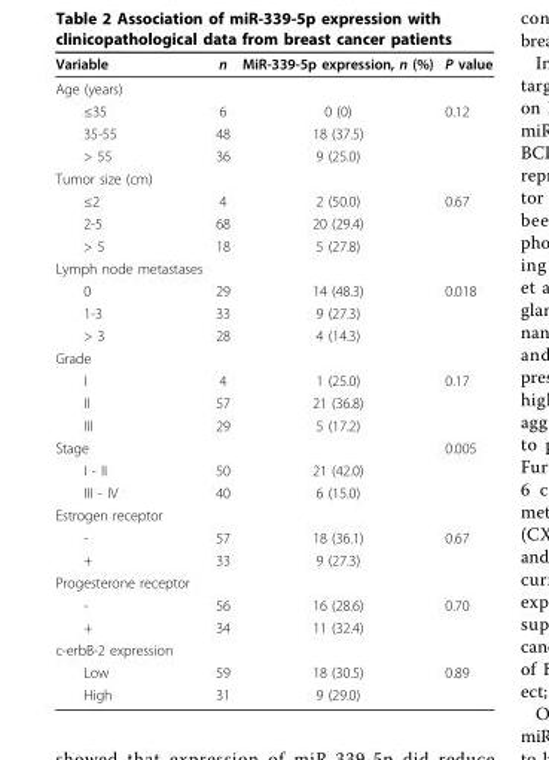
<table><thead><tr><td>Variable</td><td>n</td><td>MiR-339-5p expression, n (%)</td><td>P value</td></tr></thead><tbody><tr><td colspan="4">Age (years)</td></tr><tr><td>≤35</td><td>6</td><td>0 (0)</td><td>0.12</td></tr><tr><td>35-55</td><td>48</td><td>18 (37.5)</td><td></td></tr><tr><td>&gt; 55</td><td>36</td><td>9 (25.0)</td><td></td></tr><tr><td colspan="4">Tumor size (cm)</td></tr><tr><td>≤2</td><td>4</td><td>2 (50.0)</td><td>0.67</td></tr><tr><td>2-5</td><td>68</td><td>20 (29.4)</td><td></td></tr><tr><td>&gt; 5</td><td>18</td><td>5 (27.8)</td><td></td></tr><tr><td colspan="4">Lymph node metastases</td></tr><tr><td>0</td><td>29</td><td>14 (48.3)</td><td>0.018</td></tr><tr><td>1-3</td><td>33</td><td>9 (27.3)</td><td></td></tr><tr><td>&gt; 3</td><td>28</td><td>4 (14.3)</td><td></td></tr><tr><td colspan="4">Grade</td></tr><tr><td>I</td><td>4</td><td>1 (25.0)</td><td>0.17</td></tr><tr><td>II</td><td>57</td><td>21 (36.8)</td><td></td></tr><tr><td>III</td><td>29</td><td>5 (17.2)</td><td></td></tr><tr><td>Stage</td><td></td><td></td><td>0.005</td></tr><tr><td>I - II</td><td>50</td><td>21 (42.0)</td><td></td></tr><tr><td>III - IV</td><td>40</td><td>6 (15.0)</td><td></td></tr><tr><td colspan="4">Estrogen receptor</td></tr><tr><td>-</td><td>57</td><td>18 (36.1)</td><td>0.67</td></tr><tr><td>+</td><td>33</td><td>9 (27.3)</td><td></td></tr><tr><td colspan="4">Progesterone receptor</td></tr><tr><td>-</td><td>56</td><td>16 (28.6)</td><td>0.70</td></tr><tr><td>+</td><td>34</td><td>11 (32.4)</td><td></td></tr><tr><td colspan="4">c-erbB-2 expression</td></tr><tr><td>Low</td><td>59</td><td>18 (30.5)</td><td>0.89</td></tr><tr><td>High</td><td>31</td><td>9 (29.0)</td><td></td></tr></tbody></table>